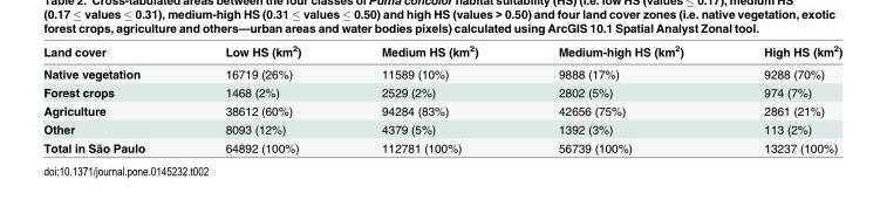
<table><thead><tr><td>Land cover</td><td>Low HS (km<sup>2</sup>)</td><td>Medium HS (km<sup>2</sup>)</td><td>Medium-high HS (km<sup>2</sup>)</td><td>High HS (km<sup>2</sup>)</td></tr></thead><tbody><tr><td>Native vegetation</td><td>16719 (26%)</td><td>11589 (10%)</td><td>9888 (17%)</td><td>9288 (70%)</td></tr><tr><td>Forest crops</td><td>1468 (2%)</td><td>2529 (2%)</td><td>2802 (5%)</td><td>974 (7%)</td></tr><tr><td>Agriculture</td><td>38612 (60%)</td><td>94284 (83%)</td><td>42656 (75%)</td><td>2861 (21%)</td></tr><tr><td>Other</td><td>8093 (12%)</td><td>4379 (5%)</td><td>1392 (3%)</td><td>113 (2%)</td></tr><tr><td>Total in São Paulo</td><td>64892 (100%)</td><td>112781 (100%)</td><td>56739 (100%)</td><td>13237 (100%)</td></tr></tbody></table>